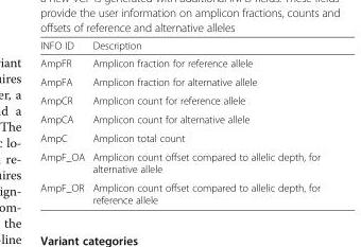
<table><thead><tr><td>INFO ID</td><td>Description</td></tr></thead><tbody><tr><td>AmpFR</td><td>Amplicon fraction for reference allele</td></tr><tr><td>AmpFA</td><td>Amplicon fraction for alternative allele</td></tr><tr><td>AmpCR</td><td>Amplicon count for reference allele</td></tr><tr><td>AmpCA</td><td>Amplicon count for alternative allele</td></tr><tr><td>AmpC</td><td>Amplicon total count</td></tr><tr><td>AmpF_OA</td><td>Amplicon count offset compared to allelic depth, for alternative allele</td></tr><tr><td>AmpF_OR</td><td>Amplicon count offset compared to allelic depth, for reference allele</td></tr></tbody></table>